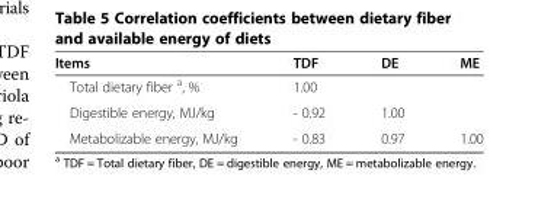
<table><thead><tr><td>Items</td><td>TDF</td><td>DE</td><td>ME</td></tr></thead><tbody><tr><td>Total dietary fiber <sup>a</sup>, %</td><td>1.00</td><td></td><td></td></tr><tr><td>Digestible energy, MJ/kg</td><td>- 0.92</td><td>1.00</td><td></td></tr><tr><td>Metabolizable energy, MJ/kg</td><td>- 0.83</td><td>0.97</td><td>1.00</td></tr></tbody></table>